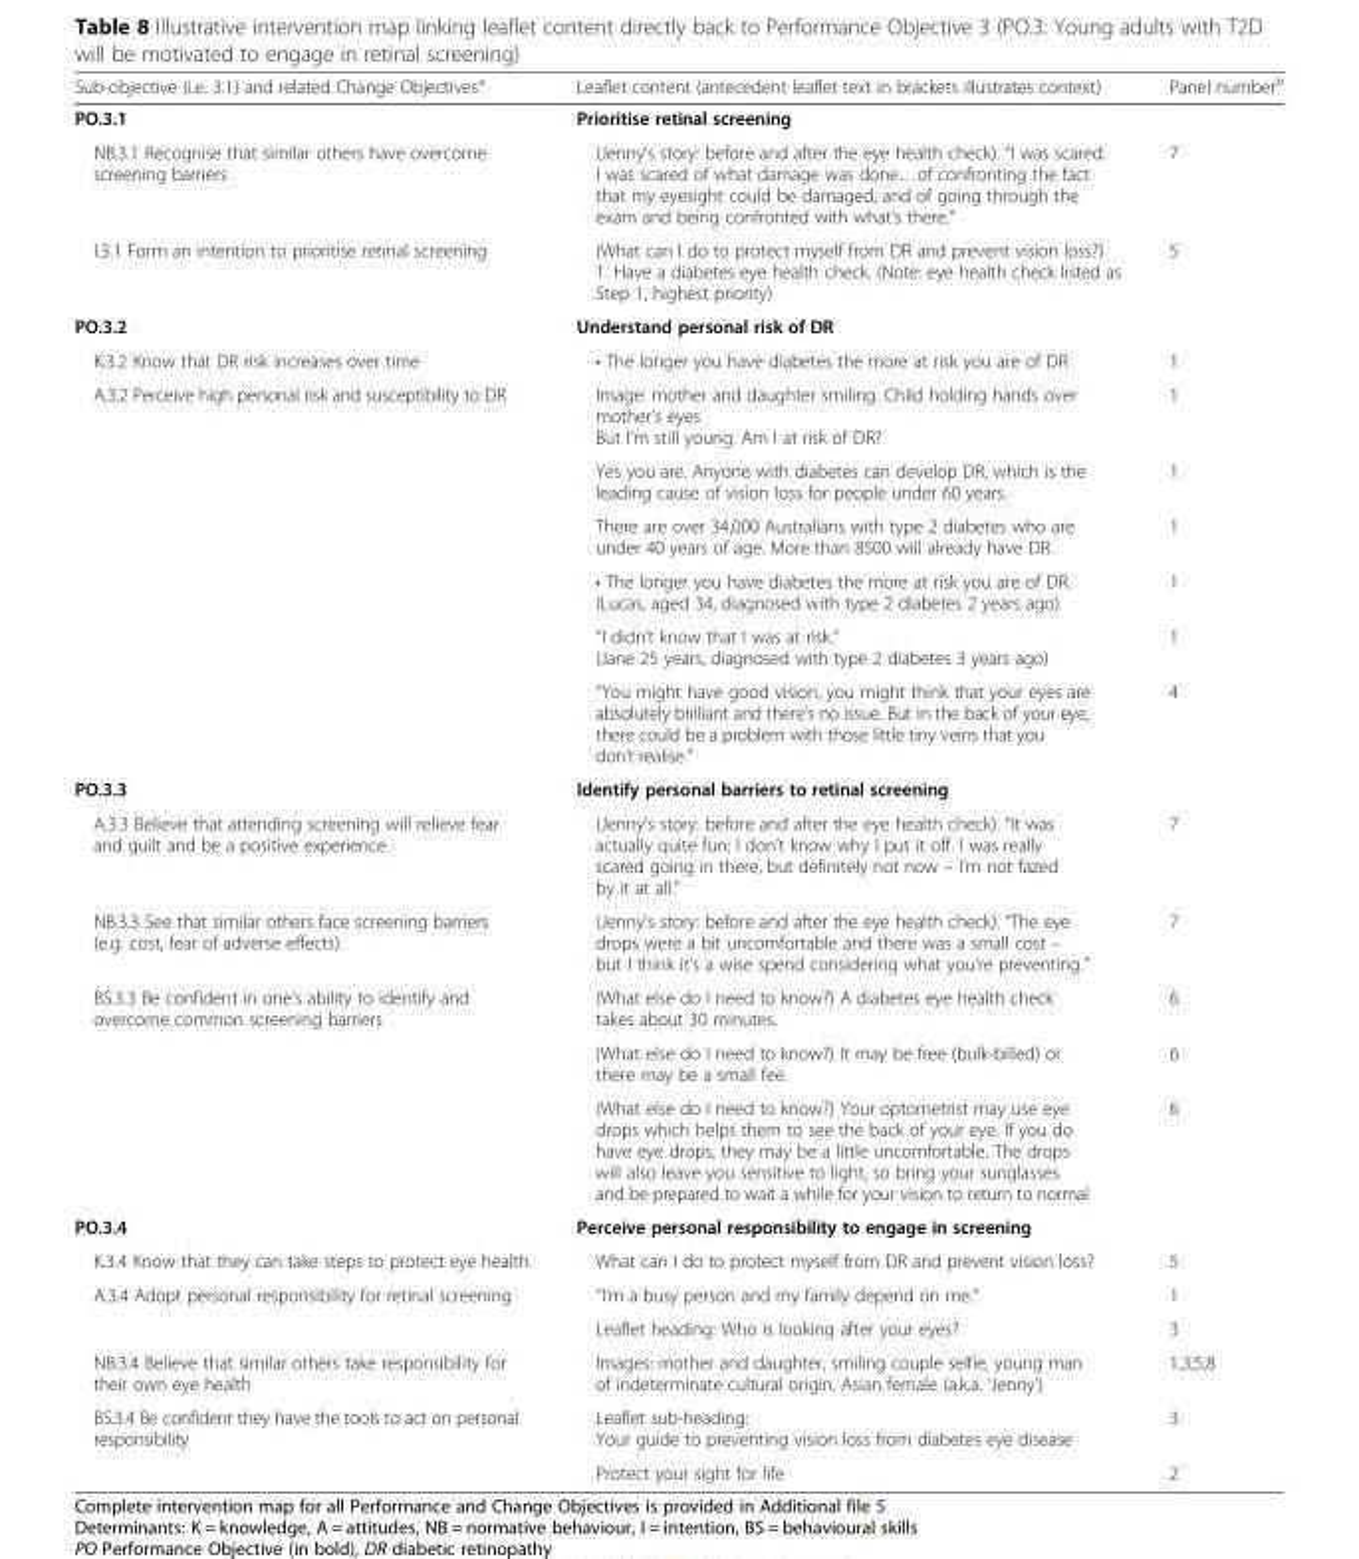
<table><thead><tr><td>Sub-objective (i.e. 3.1) and related Change Objectives<sup>a</sup></td><td>Leaflet content (antecedent leaflet text in brackets illustrates context)</td><td>Panel number<sup>b</sup></td></tr></thead><tbody><tr><td>PO.3.1</td><td colspan="2">Prioritise retinal screening</td></tr><tr><td>NB.3.1 Recognise that similar others have overcome screening barriers</td><td>(Jenny’s story: before and after the eye health check). “I was scared. I was scared of what damage was done…of confronting the fact that my eyesight could be damaged, and of going through the exam and being confronted with what’s there.”</td><td>7</td></tr><tr><td>I.3.1 Form an intention to prioritise retinal screening</td><td>(What can I do to protect myself from DR and prevent vision loss?) 1. Have a diabetes eye health check. (Note: eye health check listed as Step 1, highest priority)</td><td>5</td></tr><tr><td>PO.3.2</td><td colspan="2">Understand personal risk of DR</td></tr><tr><td>K.3.2 Know that DR risk increases over time</td><td>• The longer you have diabetes the more at risk you are of DR</td><td>1</td></tr><tr><td rowspan="6">A.3.2 Perceive high personal risk and susceptibility to DR</td><td>Image: mother and daughter smiling. Child holding hands over mother’s eyes But I’m still young. Am I at risk of DR?</td><td>1</td></tr><tr><td>Yes you are. Anyone with diabetes can develop DR, which is the leading cause of vision loss for people under 60 years.</td><td>1</td></tr><tr><td>There are over 34,000 Australians with type 2 diabetes who are under 40 years of age. More than 8500 will already have DR.</td><td>1</td></tr><tr><td>• The longer you have diabetes the more at risk you are of DR. (Lucas, aged 34, diagnosed with type 2 diabetes 2 years ago)</td><td>1</td></tr><tr><td>“I didn’t know that I was at risk.” (Jane 25 years, diagnosed with type 2 diabetes 3 years ago)</td><td>1</td></tr><tr><td>“You might have good vision, you might think that your eyes are absolutely brilliant and there’s no issue. But in the back of your eye, there could be a problem with those little tiny veins that you don’t realise.”</td><td>4</td></tr><tr><td>PO.3.3</td><td colspan="2">Identify personal barriers to retinal screening</td></tr><tr><td>A.3.3 Believe that attending screening will relieve fear and guilt and be a positive experience</td><td>(Jenny’s story: before and after the eye health check). “It was actually quite fun; I don’t know why I put it off. I was really scared going in there, but definitely not now – I’m not fazed by it at all.”</td><td>7</td></tr><tr><td>NB.3.3 See that similar others face screening barriers (e.g. cost, fear of adverse effects)</td><td>(Jenny’s story: before and after the eye health check). “The eye drops were a bit uncomfortable and there was a small cost – but I think it’s a wise spend considering what you’re preventing.”</td><td>7</td></tr><tr><td rowspan="3">BS.3.3 Be confident in one’s ability to identify and overcome common screening barriers</td><td>(What else do I need to know?) A diabetes eye health check takes about 30 minutes.</td><td>6</td></tr><tr><td>(What else do I need to know?) It may be free (bulk-billed) or there may be a small fee.</td><td>6</td></tr><tr><td>(What else do I need to know?) Your optometrist may use eye drops which helps them to see the back of your eye. If you do have eye drops, they may be a little uncomfortable. The drops will also leave you sensitive to light, so bring your sunglasses and be prepared to wait a while for your vision to return to normal</td><td>6</td></tr><tr><td>PO.3.4</td><td colspan="2">Perceive personal responsibility to engage in screening</td></tr><tr><td>K.3.4 Know that they can take steps to protect eye health</td><td>What can I do to protect myself from DR and prevent vision loss?</td><td>5</td></tr><tr><td rowspan="2">A.3.4 Adopt personal responsibility for retinal screening</td><td>“I’m a busy person and my family depend on me.”</td><td>1</td></tr><tr><td>Leaflet heading: Who is looking after your eyes?</td><td>3</td></tr><tr><td>NB.3.4 Believe that similar others take responsibility for their own eye health</td><td>Images: mother and daughter, smiling couple selfie, young man of indeterminate cultural origin, Asian female (a.k.a. ‘Jenny’)</td><td>1,3,5,8</td></tr><tr><td rowspan="2">BS.3.4 Be confident they have the tools to act on personal responsibility</td><td>Leaflet sub-heading: Your guide to preventing vision loss from diabetes eye disease</td><td>3</td></tr><tr><td>Protect your sight for life</td><td>2</td></tr></tbody></table>